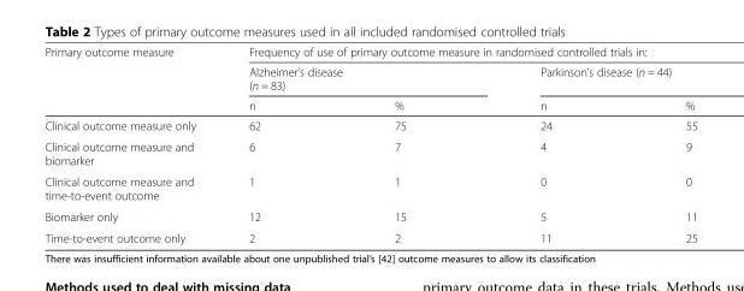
<table><thead><tr><td rowspan="3">Primary outcome measure</td><td colspan="4">Frequency of use of primary outcome measure in randomised controlled trials in:</td></tr><tr><td colspan="2">Alzheimer’s disease (n = 83)</td><td colspan="2">Parkinson’s disease (n = 44)</td></tr><tr><td>n</td><td>%</td><td>n</td><td>%</td></tr></thead><tbody><tr><td>Clinical outcome measure only</td><td>62</td><td>75</td><td>24</td><td>55</td></tr><tr><td>Clinical outcome measure and biomarker</td><td>6</td><td>7</td><td>4</td><td>9</td></tr><tr><td>Clinical outcome measure and time-to-event outcome</td><td>1</td><td>1</td><td>0</td><td>0</td></tr><tr><td>Biomarker only</td><td>12</td><td>15</td><td>5</td><td>11</td></tr><tr><td>Time-to-event outcome only</td><td>2</td><td>2</td><td>11</td><td>25</td></tr></tbody></table>